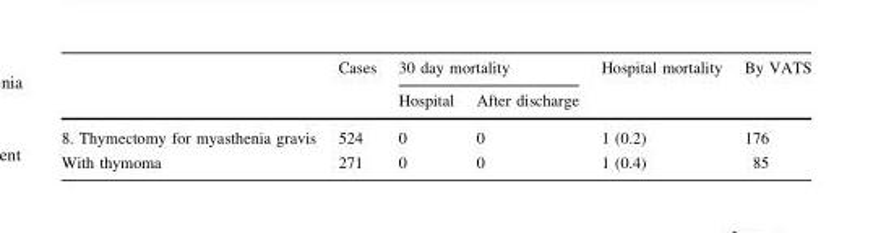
<table><thead><tr><td rowspan="2"></td><td rowspan="2">Cases</td><td colspan="2">30 day mortality</td><td rowspan="2">Hospital mortality</td><td rowspan="2">By VATS</td></tr><tr><td>Hospital</td><td>After discharge</td></tr></thead><tbody><tr><td>8. Thymectomy for myasthenia gravis</td><td>524</td><td>0</td><td>0</td><td>1 (0.2)</td><td>176</td></tr><tr><td>With thymoma</td><td>271</td><td>0</td><td>0</td><td>1 (0.4)</td><td>85</td></tr></tbody></table>